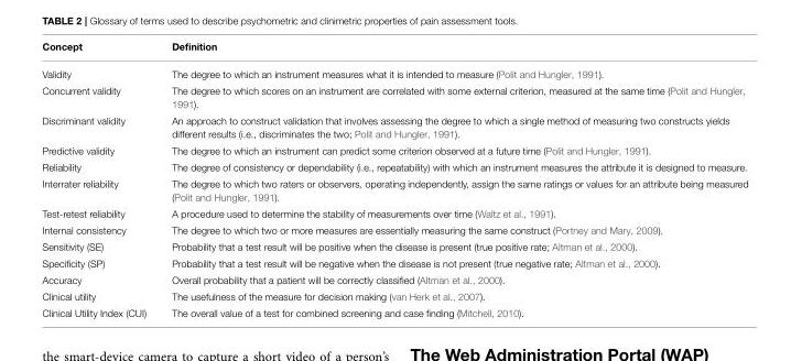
<table><thead><tr><td>Concept</td><td>Definition</td></tr></thead><tbody><tr><td>Validity</td><td>The degree to which an instrument measures what it is intended to measure (Polit and Hungler, 1991).</td></tr><tr><td>Concurrent validity</td><td>The degree to which scores on an instrument are correlated with some external criterion, measured at the same time (Polit and Hungler, 1991).</td></tr><tr><td>Discriminant validity</td><td>An approach to construct validation that involves assessing the degree to which a single method of measuring two constructs yields different results (i.e., discriminates the two; Polit and Hungler, 1991).</td></tr><tr><td>Predictive validity</td><td>The degree to which an instrument can predict some criterion observed at a future time (Polit and Hungler, 1991).</td></tr><tr><td>Reliability</td><td>The degree of consistency or dependability (i.e., repeatability) with which an instrument measures the attribute it is designed to measure.</td></tr><tr><td>Interrater reliability</td><td>The degree to which two raters or observers, operating independently, assign the same ratings or values for an attribute being measured (Polit and Hungler, 1991).</td></tr><tr><td>Test-retest reliability</td><td>A procedure used to determine the stability of measurements over time (Waltz et al., 1991).</td></tr><tr><td>Internal consistency</td><td>The degree to which two or more measures are essentially measuring the same construct (Portney and Mary, 2009).</td></tr><tr><td>Sensitivity (SE)</td><td>Probability that a test result will be positive when the disease is present (true positive rate; Altman et al., 2000).</td></tr><tr><td>Specificity (SP)</td><td>Probability that a test result will be negative when the disease is not present (true negative rate; Altman et al., 2000).</td></tr><tr><td>Accuracy</td><td>Overall probability that a patient will be correctly classified (Altman et al., 2000).</td></tr><tr><td>Clinical utility</td><td>The usefulness of the measure for decision making (van Herk et al., 2007).</td></tr><tr><td>Clinical Utility Index (CUI)</td><td>The overall value of a test for combined screening and case finding (Mitchell, 2010).</td></tr></tbody></table>